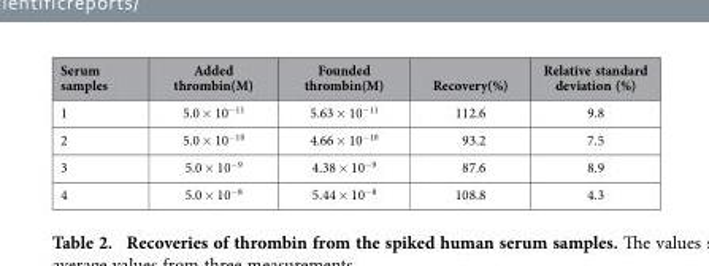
<table><thead><tr><td>Serum samples</td><td>Added thrombin(M)</td><td>Founded thrombin(M)</td><td>Recovery(%)</td><td>Relative standard deviation (%)</td></tr></thead><tbody><tr><td>1</td><td>5.0 × 10<sup>−11</sup></td><td>5.63 × 10<sup>−11</sup></td><td>112.6</td><td>9.8</td></tr><tr><td>2</td><td>5.0 × 10<sup>−10</sup></td><td>4.66 × 10<sup>−10</sup></td><td>93.2</td><td>7.5</td></tr><tr><td>3</td><td>5.0 × 10<sup>−9</sup></td><td>4.38 × 10<sup>−9</sup></td><td>87.6</td><td>8.9</td></tr><tr><td>4</td><td>5.0 × 10<sup>−8</sup></td><td>5.44 × 10<sup>−8</sup></td><td>108.8</td><td>4.3</td></tr></tbody></table>